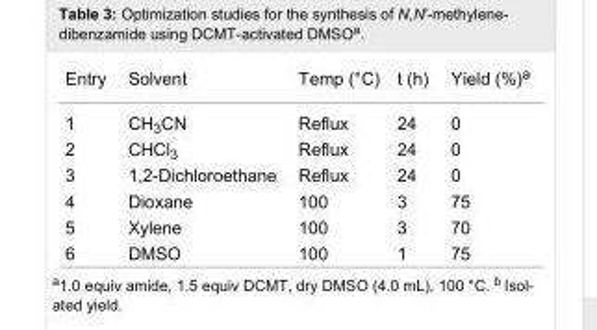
<table><tbody><tr><td>Entry</td><td>Solvent</td><td>Temp (°C)</td><td>t (h)</td><td>Yield (%)<sup>a</sup></td></tr><tr><td>1</td><td>CH<sub>3</sub>CN</td><td>Reflux</td><td>24</td><td>0</td></tr><tr><td>2</td><td>CHCl<sub>3</sub></td><td>Reflux</td><td>24</td><td>0</td></tr><tr><td>3</td><td>1,2-Dichloroethane</td><td>Reflux</td><td>24</td><td>0</td></tr><tr><td>4</td><td>Dioxane</td><td>100</td><td>3</td><td>75</td></tr><tr><td>5</td><td>Xylene</td><td>100</td><td>3</td><td>70</td></tr><tr><td>6</td><td>DMSO</td><td>100</td><td>1</td><td>75</td></tr></tbody></table>